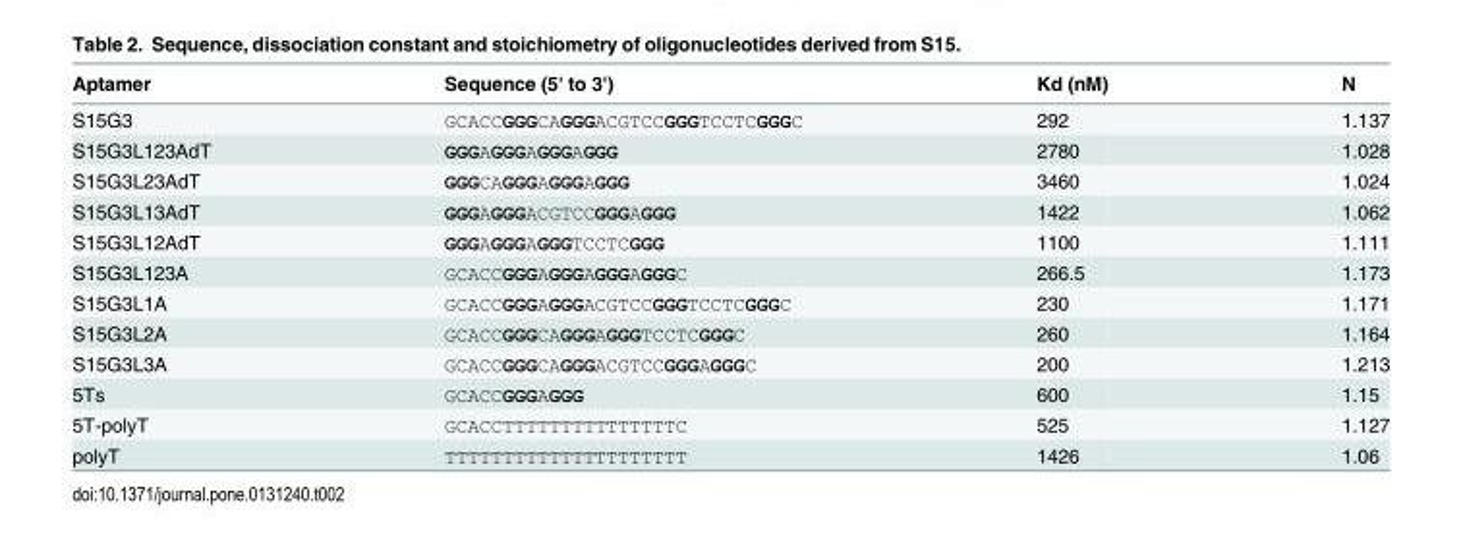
<table><thead><tr><td>Aptamer</td><td>Sequence (5&#x27; to 3&#x27;)</td><td>Kd (nM)</td><td>N</td></tr></thead><tbody><tr><td>S15G3</td><td>GCACCGGGCAGGGACGTCCGGGTCCTCGGGC</td><td>292</td><td>1.137</td></tr><tr><td>S15G3L123AdT</td><td>GGGAGGGAGGGAGGG</td><td>2780</td><td>1.028</td></tr><tr><td>S15G3L23AdT</td><td>GGGCAGGGAGGGAGGG</td><td>3460</td><td>1.024</td></tr><tr><td>S15G3L13AdT</td><td>GGGAGGGACGTCCGGGAGGG</td><td>1422</td><td>1.062</td></tr><tr><td>S15G3L12AdT</td><td>GGGAGGGAGGGTCCTCGGG</td><td>1100</td><td>1.111</td></tr><tr><td>S15G3L123A</td><td>GCACCGGGAGGGAGGGAGGGC</td><td>266.5</td><td>1.173</td></tr><tr><td>S15G3L1A</td><td>GCACCGGGAGGGACGTCCGGGTCCTCGGGC</td><td>230</td><td>1.171</td></tr><tr><td>S15G3L2A</td><td>GCACCGGGCAGGGAGGGTCCTCGGGC</td><td>260</td><td>1.164</td></tr><tr><td>S15G3L3A</td><td>GCACCGGGCAGGGACGTCCGGGAGGGC</td><td>200</td><td>1.213</td></tr><tr><td>5Ts</td><td>GCACCGGGAGGG</td><td>600</td><td>1.15</td></tr><tr><td>5T-polyT</td><td>GCACCTTTTTTTTTTTTTTTC</td><td>525</td><td>1.127</td></tr><tr><td>polyT</td><td>TTTTTTTTTTTTTTTTTTTTT</td><td>1426</td><td>1.06</td></tr></tbody></table>